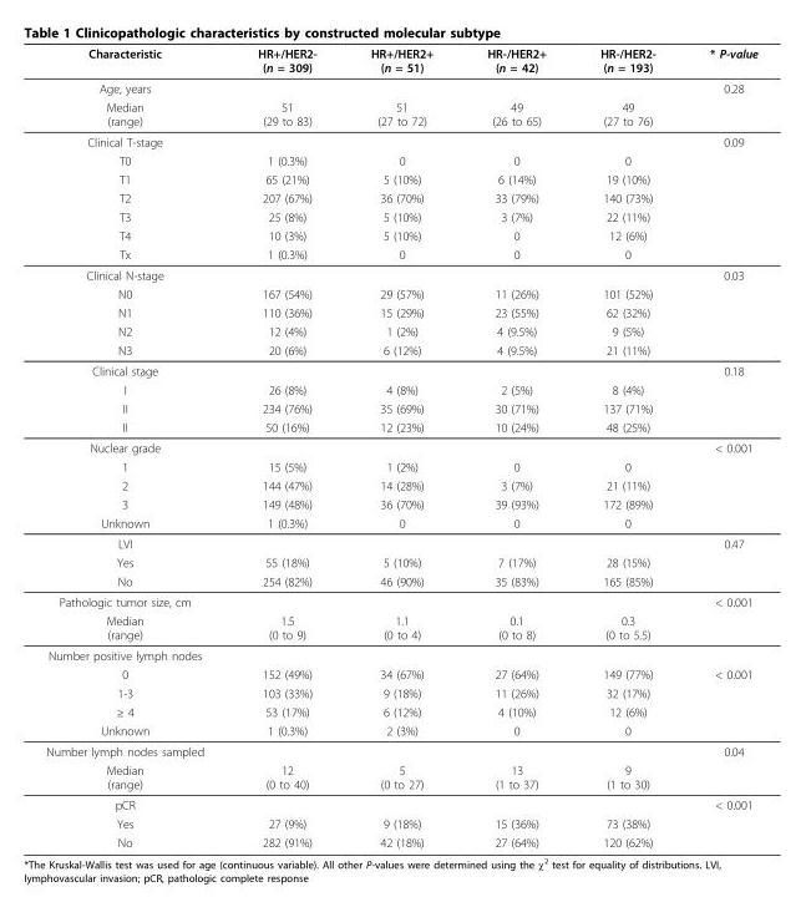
<table><thead><tr><td>Characteristic</td><td>HR+/HER2- (n = 309)</td><td>HR+/HER2+ (n = 51)</td><td>HR-/HER2+ (n = 42)</td><td>HR-/HER2- (n = 193)</td><td>* P-value</td></tr></thead><tbody><tr><td>Age, years</td><td></td><td></td><td></td><td></td><td>0.28</td></tr><tr><td>Median (range)</td><td>51 (29 to 83)</td><td>51 (27 to 72)</td><td>49 (26 to 65)</td><td>49 (27 to 76)</td><td></td></tr><tr><td>Clinical T-stage</td><td></td><td></td><td></td><td></td><td>0.09</td></tr><tr><td>T0</td><td>1 (0.3%)</td><td>0</td><td>0</td><td>0</td><td></td></tr><tr><td>T1</td><td>65 (21%)</td><td>5 (10%)</td><td>6 (14%)</td><td>19 (10%)</td><td></td></tr><tr><td>T2</td><td>207 (67%)</td><td>36 (70%)</td><td>33 (79%)</td><td>140 (73%)</td><td></td></tr><tr><td>T3</td><td>25 (8%)</td><td>5 (10%)</td><td>3 (7%)</td><td>22 (11%)</td><td></td></tr><tr><td>T4</td><td>10 (3%)</td><td>5 (10%)</td><td>0</td><td>12 (6%)</td><td></td></tr><tr><td>Tx</td><td>1 (0.3%)</td><td>0</td><td>0</td><td>0</td><td></td></tr><tr><td>Clinical N-stage</td><td></td><td></td><td></td><td></td><td>0.03</td></tr><tr><td>N0</td><td>167 (54%)</td><td>29 (57%)</td><td>11 (26%)</td><td>101 (52%)</td><td></td></tr><tr><td>N1</td><td>110 (36%)</td><td>15 (29%)</td><td>23 (55%)</td><td>62 (32%)</td><td></td></tr><tr><td>N2</td><td>12 (4%)</td><td>1 (2%)</td><td>4 (9.5%)</td><td>9 (5%)</td><td></td></tr><tr><td>N3</td><td>20 (6%)</td><td>6 (12%)</td><td>4 (9.5%)</td><td>21 (11%)</td><td></td></tr><tr><td>Clinical stage</td><td></td><td></td><td></td><td></td><td>0.18</td></tr><tr><td>I</td><td>26 (8%)</td><td>4 (8%)</td><td>2 (5%)</td><td>8 (4%)</td><td></td></tr><tr><td>II</td><td>234 (76%)</td><td>35 (69%)</td><td>30 (71%)</td><td>137 (71%)</td><td></td></tr><tr><td>II</td><td>50 (16%)</td><td>12 (23%)</td><td>10 (24%)</td><td>48 (25%)</td><td></td></tr><tr><td>Nuclear grade</td><td></td><td></td><td></td><td></td><td>&lt; 0.001</td></tr><tr><td>1</td><td>15 (5%)</td><td>1 (2%)</td><td>0</td><td>0</td><td></td></tr><tr><td>2</td><td>144 (47%)</td><td>14 (28%)</td><td>3 (7%)</td><td>21 (11%)</td><td></td></tr><tr><td>3</td><td>149 (48%)</td><td>36 (70%)</td><td>39 (93%)</td><td>172 (89%)</td><td></td></tr><tr><td>Unknown</td><td>1 (0.3%)</td><td>0</td><td>0</td><td>0</td><td></td></tr><tr><td>LVI</td><td></td><td></td><td></td><td></td><td>0.47</td></tr><tr><td>Yes</td><td>55 (18%)</td><td>5 (10%)</td><td>7 (17%)</td><td>28 (15%)</td><td></td></tr><tr><td>No</td><td>254 (82%)</td><td>46 (90%)</td><td>35 (83%)</td><td>165 (85%)</td><td></td></tr><tr><td>Pathologic tumor size, cm</td><td></td><td></td><td></td><td></td><td>&lt; 0.001</td></tr><tr><td>Median (range)</td><td>1.5 (0 to 9)</td><td>1.1 (0 to 4)</td><td>0.1 (0 to 8)</td><td>0.3 (0 to 5.5)</td><td></td></tr><tr><td colspan="6">Number positive lymph nodes</td></tr><tr><td>0</td><td>152 (49%)</td><td>34 (67%)</td><td>27 (64%)</td><td>149 (77%)</td><td>&lt; 0.001</td></tr><tr><td>1-3</td><td>103 (33%)</td><td>9 (18%)</td><td>11 (26%)</td><td>32 (17%)</td><td></td></tr><tr><td>≥ 4</td><td>53 (17%)</td><td>6 (12%)</td><td>4 (10%)</td><td>12 (6%)</td><td></td></tr><tr><td>Unknown</td><td>1 (0.3%)</td><td>2 (3%)</td><td>0</td><td>0</td><td></td></tr><tr><td>Number lymph nodes sampled</td><td></td><td></td><td></td><td></td><td>0.04</td></tr><tr><td>Median (range)</td><td>12 (0 to 40)</td><td>5 (0 to 27)</td><td>13 (1 to 37)</td><td>9 (1 to 30)</td><td></td></tr><tr><td>pCR</td><td></td><td></td><td></td><td></td><td>&lt; 0.001</td></tr><tr><td>Yes</td><td>27 (9%)</td><td>9 (18%)</td><td>15 (36%)</td><td>73 (38%)</td><td></td></tr><tr><td>No</td><td>282 (91%)</td><td>42 (18%)</td><td>27 (64%)</td><td>120 (62%)</td><td></td></tr></tbody></table>